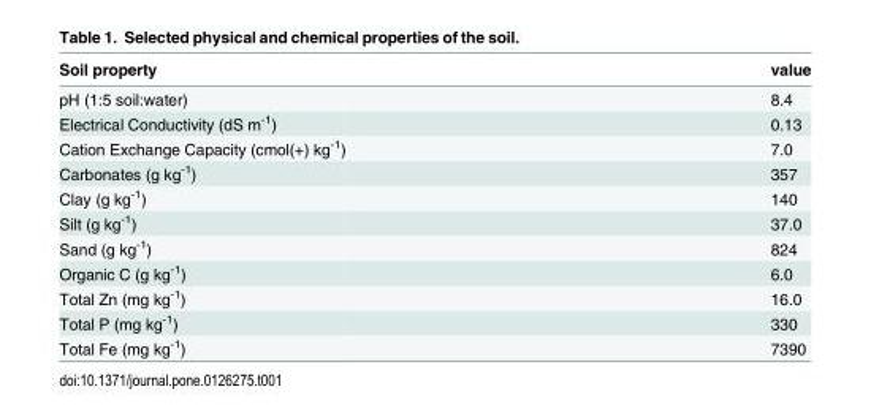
<table><thead><tr><td>Soil property</td><td>value</td></tr></thead><tbody><tr><td>pH (1:5 soil:water)</td><td>8.4</td></tr><tr><td>Electrical Conductivity (dS m<sup>-1</sup>)</td><td>0.13</td></tr><tr><td>Cation Exchange Capacity (cmol(+) kg<sup>-1</sup>)</td><td>7.0</td></tr><tr><td>Carbonates (g kg<sup>-1</sup>)</td><td>357</td></tr><tr><td>Clay (g kg<sup>-1</sup>)</td><td>140</td></tr><tr><td>Silt (g kg<sup>-1</sup>)</td><td>37.0</td></tr><tr><td>Sand (g kg<sup>-1</sup>)</td><td>824</td></tr><tr><td>Organic C (g kg<sup>-1</sup>)</td><td>6.0</td></tr><tr><td>Total Zn (mg kg<sup>-1</sup>)</td><td>16.0</td></tr><tr><td>Total P (mg kg<sup>-1</sup>)</td><td>330</td></tr><tr><td>Total Fe (mg kg<sup>-1</sup>)</td><td>7390</td></tr></tbody></table>